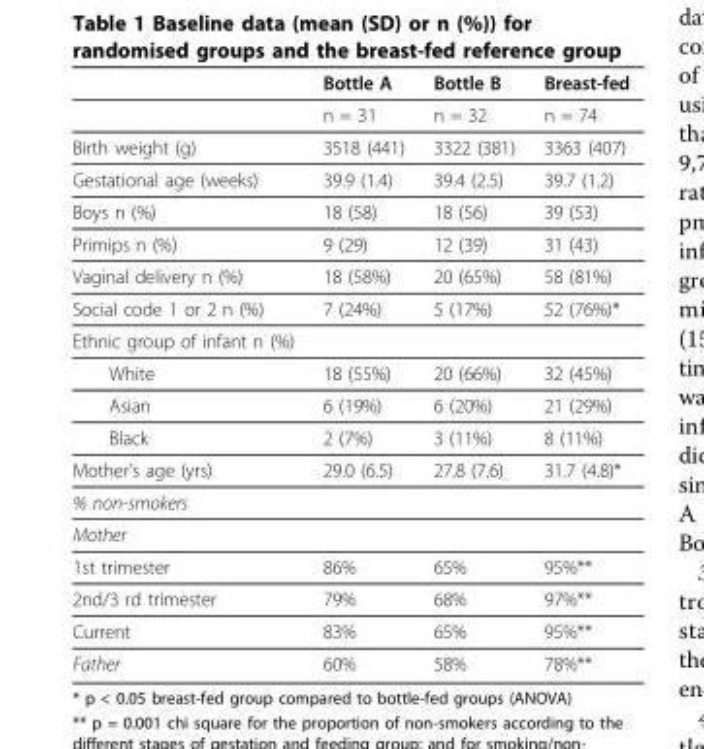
<table><thead><tr><td></td><td>Bottle A</td><td>Bottle B</td><td>Breast-fed</td></tr></thead><tbody><tr><td></td><td>n = 31</td><td>n = 32</td><td>n = 74</td></tr><tr><td>Birth weight (g)</td><td>3518 (441)</td><td>3322 (381)</td><td>3363 (407)</td></tr><tr><td>Gestational age (weeks)</td><td>39.9 (1.4)</td><td>39.4 (2.5)</td><td>39.7 (1.2)</td></tr><tr><td>Boys n (%)</td><td>18 (58)</td><td>18 (56)</td><td>39 (53)</td></tr><tr><td>Primips n (%)</td><td>9 (29)</td><td>12 (39)</td><td>31 (43)</td></tr><tr><td>Vaginal delivery n (%)</td><td>18 (58%)</td><td>20 (65%)</td><td>58 (81%)</td></tr><tr><td>Social code 1 or 2 n (%)</td><td>7 (24%)</td><td>5 (17%)</td><td>52 (76%)*</td></tr><tr><td colspan="4">Ethnic group of infant n (%)</td></tr><tr><td>White</td><td>18 (55%)</td><td>20 (66%)</td><td>32 (45%)</td></tr><tr><td>Asian</td><td>6 (19%)</td><td>6 (20%)</td><td>21 (29%)</td></tr><tr><td>Black</td><td>2 (7%)</td><td>3 (11%)</td><td>8 (11%)</td></tr><tr><td>Mother’s age (yrs)</td><td>29.0 (6.5)</td><td>27.8 (7.6)</td><td>31.7 (4.8)*</td></tr><tr><td colspan="4">% non-smokers</td></tr><tr><td colspan="4">Mother</td></tr><tr><td>1st trimester</td><td>86%</td><td>65%</td><td>95%**</td></tr><tr><td>2nd/3 rd trimester</td><td>79%</td><td>68%</td><td>97%**</td></tr><tr><td>Current</td><td>83%</td><td>65%</td><td>95%**</td></tr><tr><td>Father</td><td>60%</td><td>58%</td><td>78%**</td></tr></tbody></table>